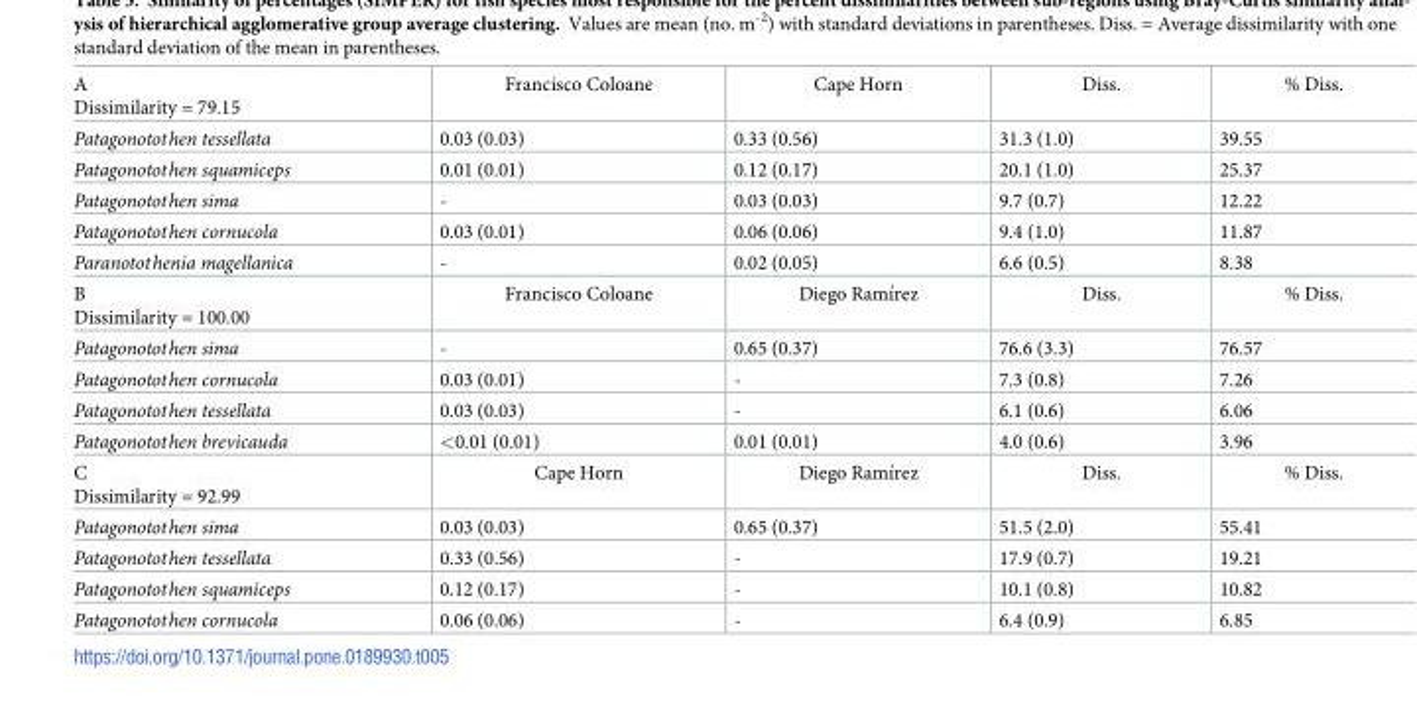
<table><tbody><tr><td>A Dissimilarity = 79.15</td><td>Francisco Coloane</td><td>Cape Horn</td><td>Diss.</td><td>% Diss.</td></tr><tr><td>Patagonotothen tessellata</td><td>0.03 (0.03)</td><td>0.33 (0.56)</td><td>31.3 (1.0)</td><td>39.55</td></tr><tr><td>Patagonotothen squamiceps</td><td>0.01 (0.01)</td><td>0.12 (0.17)</td><td>20.1 (1.0)</td><td>25.37</td></tr><tr><td>Patagonotothen sima</td><td>-</td><td>0.03 (0.03)</td><td>9.7 (0.7)</td><td>12.22</td></tr><tr><td>Patagonotothen cornucola</td><td>0.03 (0.01)</td><td>0.06 (0.06)</td><td>9.4 (1.0)</td><td>11.87</td></tr><tr><td>Paranotothenia magellanica</td><td>-</td><td>0.02 (0.05)</td><td>6.6 (0.5)</td><td>8.38</td></tr><tr><td>B Dissimilarity = 100.00</td><td>Francisco Coloane</td><td>Diego Ramı´rez</td><td>Diss.</td><td>% Diss.</td></tr><tr><td>Patagonotothen sima</td><td>-</td><td>0.65 (0.37)</td><td>76.6 (3.3)</td><td>76.57</td></tr><tr><td>Patagonotothen cornucola</td><td>0.03 (0.01)</td><td>-</td><td>7.3 (0.8)</td><td>7.26</td></tr><tr><td>Patagonotothen tessellata</td><td>0.03 (0.03)</td><td>-</td><td>6.1 (0.6)</td><td>6.06</td></tr><tr><td>Patagonotothen brevicauda</td><td>&lt;0.01 (0.01)</td><td>0.01 (0.01)</td><td>4.0 (0.6)</td><td>3.96</td></tr><tr><td>C Dissimilarity = 92.99</td><td>Cape Horn</td><td>Diego Ramı´rez</td><td>Diss.</td><td>% Diss.</td></tr><tr><td>Patagonotothen sima</td><td>0.03 (0.03)</td><td>0.65 (0.37)</td><td>51.5 (2.0)</td><td>55.41</td></tr><tr><td>Patagonotothen tessellata</td><td>0.33 (0.56)</td><td>-</td><td>17.9 (0.7)</td><td>19.21</td></tr><tr><td>Patagonotothen squamiceps</td><td>0.12 (0.17)</td><td>-</td><td>10.1 (0.8)</td><td>10.82</td></tr><tr><td>Patagonotothen cornucola</td><td>0.06 (0.06)</td><td>-</td><td>6.4 (0.9)</td><td>6.85</td></tr></tbody></table>